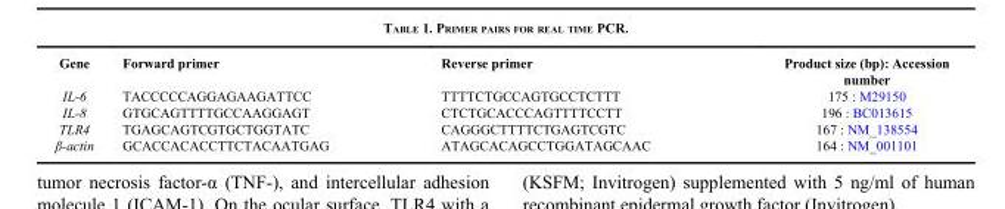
<table><thead><tr><td>Gene</td><td>Forward primer</td><td>Reverse primer</td><td>Product size (bp): Accession number</td></tr></thead><tbody><tr><td>IL-6</td><td>TACCCCCAGGAGAAGATTCC</td><td>TTTTCTGCCAGTGCCTCTTT</td><td>175 : M29150</td></tr><tr><td>IL-8</td><td>GTGCAGTTTTGCCAAGGAGT</td><td>CTCTGCACCCAGTTTTCCTT</td><td>196 : BC013615</td></tr><tr><td>TLR4</td><td>TGAGCAGTCGTGCTGGTATC</td><td>CAGGGCTTTTCTGAGTCGTC</td><td>167 : NM_138554</td></tr><tr><td>β-actin</td><td>GCACCACACCTTCTACAATGAG</td><td>ATAGCACAGCCTGGATAGCAAC</td><td>164 : NM_001101</td></tr></tbody></table>